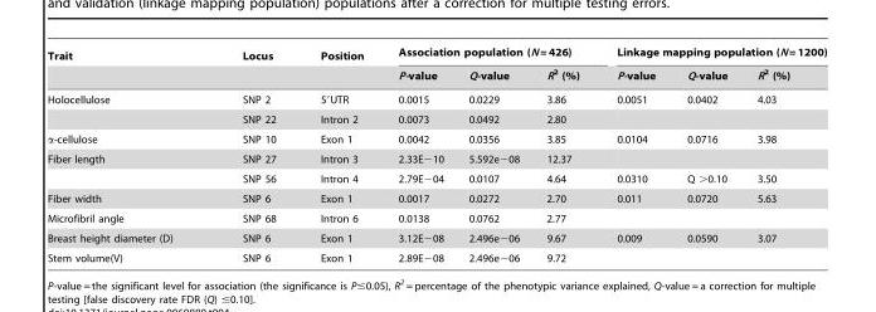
<table><thead><tr><td rowspan="2">Trait</td><td rowspan="2">Locus</td><td rowspan="2">Position</td><td colspan="3">Association population (N = 426)</td><td colspan="3">Linkage mapping population (N = 1200)</td></tr><tr><td>P-value</td><td>Q-value</td><td>R<sup>2</sup> (%)</td><td>P-value</td><td>Q-value</td><td>R<sup>2</sup> (%)</td></tr></thead><tbody><tr><td rowspan="2">Holocellulose</td><td>SNP 2</td><td>5′UTR</td><td>0.0015</td><td>0.0229</td><td>3.86</td><td>0.0051</td><td>0.0402</td><td>4.03</td></tr><tr><td>SNP 22</td><td>Intron 2</td><td>0.0073</td><td>0.0492</td><td>2.80</td><td></td><td></td><td></td></tr><tr><td>α-cellulose</td><td>SNP 10</td><td>Exon 1</td><td>0.0042</td><td>0.0356</td><td>3.85</td><td>0.0104</td><td>0.0716</td><td>3.98</td></tr><tr><td rowspan="2">Fiber length</td><td>SNP 27</td><td>Intron 3</td><td>2.33E−10</td><td>5.592e−08</td><td>12.37</td><td></td><td></td><td></td></tr><tr><td>SNP 56</td><td>Intron 4</td><td>2.79E−04</td><td>0.0107</td><td>4.64</td><td>0.0310</td><td>Q &gt;0.10</td><td>3.50</td></tr><tr><td>Fiber width</td><td>SNP 6</td><td>Exon 1</td><td>0.0017</td><td>0.0272</td><td>2.70</td><td>0.011</td><td>0.0720</td><td>5.63</td></tr><tr><td>Microfibril angle</td><td>SNP 68</td><td>Intron 6</td><td>0.0138</td><td>0.0762</td><td>2.77</td><td></td><td></td><td></td></tr><tr><td>Breast height diameter (D)</td><td>SNP 6</td><td>Exon 1</td><td>3.12E−08</td><td>2.496e−06</td><td>9.67</td><td>0.009</td><td>0.0590</td><td>3.07</td></tr><tr><td>Stem volume(V)</td><td>SNP 6</td><td>Exon 1</td><td>2.89E−08</td><td>2.496e−06</td><td>9.72</td><td></td><td></td><td></td></tr></tbody></table>